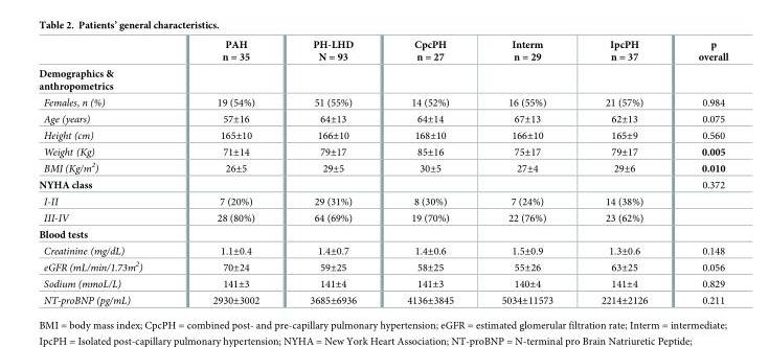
<table><thead><tr><td></td><td>PAH n = 35</td><td>PH-LHD N = 93</td><td>CpcPH n = 27</td><td>Interm n = 29</td><td>IpcPH n = 37</td><td>p overall</td></tr></thead><tbody><tr><td colspan="7">Demographics &amp; anthropometrics</td></tr><tr><td>Females, n (%)</td><td>19 (54%)</td><td>51 (55%)</td><td>14 (52%)</td><td>16 (55%)</td><td>21 (57%)</td><td>0.984</td></tr><tr><td>Age (years)</td><td>57±16</td><td>64±13</td><td>64±14</td><td>67±13</td><td>62±13</td><td>0.075</td></tr><tr><td>Height (cm)</td><td>165±10</td><td>166±10</td><td>168±10</td><td>166±10</td><td>165±9</td><td>0.560</td></tr><tr><td>Weight (Kg)</td><td>71±14</td><td>79±17</td><td>85±16</td><td>75±17</td><td>79±17</td><td>0.005</td></tr><tr><td>BMI (Kg/m<sup>2</sup>)</td><td>26±5</td><td>29±5</td><td>30±5</td><td>27±4</td><td>29±6</td><td>0.010</td></tr><tr><td>NYHA class</td><td></td><td></td><td></td><td></td><td></td><td>0.372</td></tr><tr><td>I-II</td><td>7 (20%)</td><td>29 (31%)</td><td>8 (30%)</td><td>7 (24%)</td><td>14 (38%)</td><td></td></tr><tr><td>III-IV</td><td>28 (80%)</td><td>64 (69%)</td><td>19 (70%)</td><td>22 (76%)</td><td>23 (62%)</td><td></td></tr><tr><td colspan="7">Blood tests</td></tr><tr><td>Creatinine (mg/dL)</td><td>1.1±0.4</td><td>1.4±0.7</td><td>1.4±0.6</td><td>1.5±0.9</td><td>1.3±0.6</td><td>0.148</td></tr><tr><td>eGFR (mL/min/1.73m<sup>2</sup>)</td><td>70±24</td><td>59±25</td><td>58±25</td><td>55±26</td><td>63±25</td><td>0.056</td></tr><tr><td>Sodium (mmoL/L)</td><td>141±3</td><td>141±4</td><td>141±3</td><td>140±4</td><td>141±4</td><td>0.829</td></tr><tr><td>NT-proBNP (pg/mL)</td><td>2930±3002</td><td>3685±6936</td><td>4136±3845</td><td>5034±11573</td><td>2214±2126</td><td>0.211</td></tr></tbody></table>